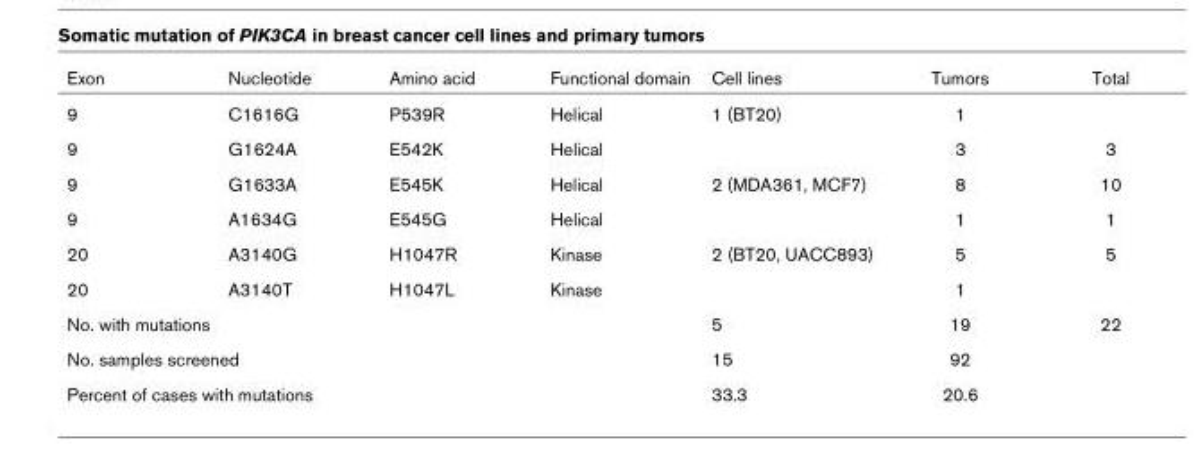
<table><thead><tr><td>Exon</td><td>Nucleotide</td><td>Amino acid</td><td>Functional domain</td><td>Cell lines</td><td>Tumors</td><td>Total</td></tr></thead><tbody><tr><td>9</td><td>C1616G</td><td>P539R</td><td>Helical</td><td>1 (BT20)</td><td>1</td><td></td></tr><tr><td>9</td><td>G1624A</td><td>E542K</td><td>Helical</td><td></td><td>3</td><td>3</td></tr><tr><td>9</td><td>G1633A</td><td>E545K</td><td>Helical</td><td>2 (MDA361, MCF7)</td><td>8</td><td>10</td></tr><tr><td>9</td><td>A1634G</td><td>E545G</td><td>Helical</td><td></td><td>1</td><td>1</td></tr><tr><td>20</td><td>A3140G</td><td>H1047R</td><td>Kinase</td><td>2 (BT20, UACC893)</td><td>5</td><td>5</td></tr><tr><td>20</td><td>A3140T</td><td>H1047L</td><td>Kinase</td><td></td><td>1</td><td></td></tr><tr><td colspan="3">No. with mutations</td><td></td><td>5</td><td>19</td><td>22</td></tr><tr><td colspan="3">No. samples screened</td><td></td><td>15</td><td>92</td><td></td></tr><tr><td colspan="3">Percent of cases with mutations</td><td></td><td>33.3</td><td>20.6</td><td></td></tr></tbody></table>